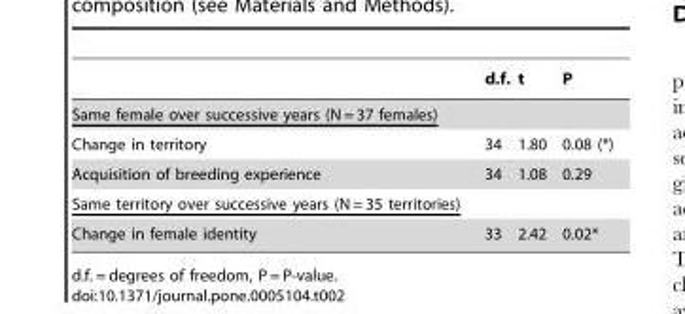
<table><thead><tr><td></td><td>d.f.</td><td>t</td><td>P</td></tr></thead><tbody><tr><td colspan="4">Same female over successive years (N = 37 females)</td></tr><tr><td>Change in territory</td><td>34</td><td>1.80</td><td>0.08 (*)</td></tr><tr><td>Acquisition of breeding experience</td><td>34</td><td>1.08</td><td>0.29</td></tr><tr><td colspan="4">Same territory over successive years (N = 35 territories)</td></tr><tr><td>Change in female identity</td><td>33</td><td>2.42</td><td>0.02*</td></tr></tbody></table>